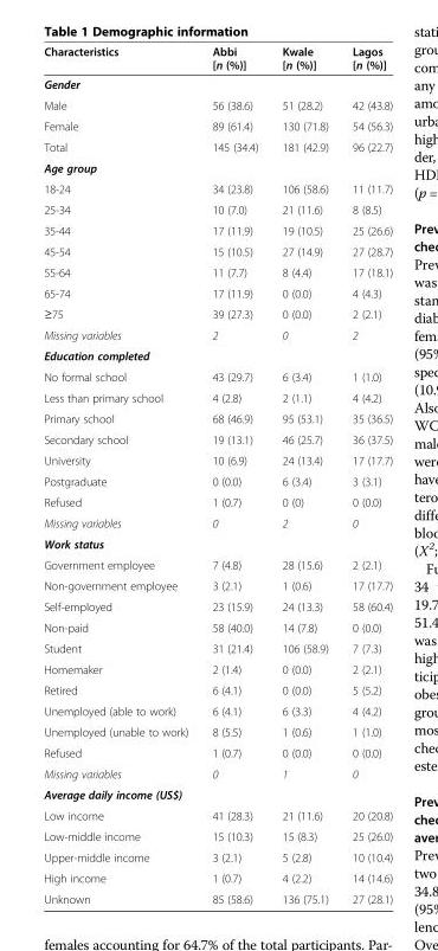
<table><thead><tr><td>Characteristics</td><td>Abbi [n (%)]</td><td>Kwale [n (%)]</td><td>Lagos [n (%)]</td></tr></thead><tbody><tr><td colspan="4">Gender</td></tr><tr><td>Male</td><td>56 (38.6)</td><td>51 (28.2)</td><td>42 (43.8)</td></tr><tr><td>Female</td><td>89 (61.4)</td><td>130 (71.8)</td><td>54 (56.3)</td></tr><tr><td>Total</td><td>145 (34.4)</td><td>181 (42.9)</td><td>96 (22.7)</td></tr><tr><td colspan="4">Age group</td></tr><tr><td>18-24</td><td>34 (23.8)</td><td>106 (58.6)</td><td>11 (11.7)</td></tr><tr><td>25-34</td><td>10 (7.0)</td><td>21 (11.6)</td><td>8 (8.5)</td></tr><tr><td>35-44</td><td>17 (11.9)</td><td>19 (10.5)</td><td>25 (26.6)</td></tr><tr><td>45-54</td><td>15 (10.5)</td><td>27 (14.9)</td><td>27 (28.7)</td></tr><tr><td>55-64</td><td>11 (7.7)</td><td>8 (4.4)</td><td>17 (18.1)</td></tr><tr><td>65-74</td><td>17 (11.9)</td><td>0 (0.0)</td><td>4 (4.3)</td></tr><tr><td>≥75</td><td>39 (27.3)</td><td>0 (0.0)</td><td>2 (2.1)</td></tr><tr><td>Missing variables</td><td>2</td><td>0</td><td>2</td></tr><tr><td colspan="4">Education completed</td></tr><tr><td>No formal school</td><td>43 (29.7)</td><td>6 (3.4)</td><td>1 (1.0)</td></tr><tr><td>Less than primary school</td><td>4 (2.8)</td><td>2 (1.1)</td><td>4 (4.2)</td></tr><tr><td>Primary school</td><td>68 (46.9)</td><td>95 (53.1)</td><td>35 (36.5)</td></tr><tr><td>Secondary school</td><td>19 (13.1)</td><td>46 (25.7)</td><td>36 (37.5)</td></tr><tr><td>University</td><td>10 (6.9)</td><td>24 (13.4)</td><td>17 (17.7)</td></tr><tr><td>Postgraduate</td><td>0 (0.0)</td><td>6 (3.4)</td><td>3 (3.1)</td></tr><tr><td>Refused</td><td>1 (0.7)</td><td>0 (0)</td><td>0 (0.0)</td></tr><tr><td>Missing variables</td><td>0</td><td>2</td><td>0</td></tr><tr><td colspan="4">Work status</td></tr><tr><td>Government employee</td><td>7 (4.8)</td><td>28 (15.6)</td><td>2 (2.1)</td></tr><tr><td>Non-government employee</td><td>3 (2.1)</td><td>1 (0.6)</td><td>17 (17.7)</td></tr><tr><td>Self-employed</td><td>23 (15.9)</td><td>24 (13.3)</td><td>58 (60.4)</td></tr><tr><td>Non-paid</td><td>58 (40.0)</td><td>14 (7.8)</td><td>0 (0.0)</td></tr><tr><td>Student</td><td>31 (21.4)</td><td>106 (58.9)</td><td>7 (7.3)</td></tr><tr><td>Homemaker</td><td>2 (1.4)</td><td>0 (0.0)</td><td>2 (2.1)</td></tr><tr><td>Retired</td><td>6 (4.1)</td><td>0 (0.0)</td><td>5 (5.2)</td></tr><tr><td>Unemployed (able to work)</td><td>6 (4.1)</td><td>6 (3.3)</td><td>4 (4.2)</td></tr><tr><td>Unemployed (unable to work)</td><td>8 (5.5)</td><td>1 (0.6)</td><td>1 (1.0)</td></tr><tr><td>Refused</td><td>1 (0.7)</td><td>0 (0.0)</td><td>0 (0.0)</td></tr><tr><td>Missing variables</td><td>0</td><td>1</td><td>0</td></tr><tr><td colspan="4">Average daily income (US$)</td></tr><tr><td>Low income</td><td>41 (28.3)</td><td>21 (11.6)</td><td>20 (20.8)</td></tr><tr><td>Low-middle income</td><td>15 (10.3)</td><td>15 (8.3)</td><td>25 (26.0)</td></tr><tr><td>Upper-middle income</td><td>3 (2.1)</td><td>5 (2.8)</td><td>10 (10.4)</td></tr><tr><td>High income</td><td>1 (0.7)</td><td>4 (2.2)</td><td>14 (14.6)</td></tr><tr><td>Unknown</td><td>85 (58.6)</td><td>136 (75.1)</td><td>27 (28.1)</td></tr></tbody></table>